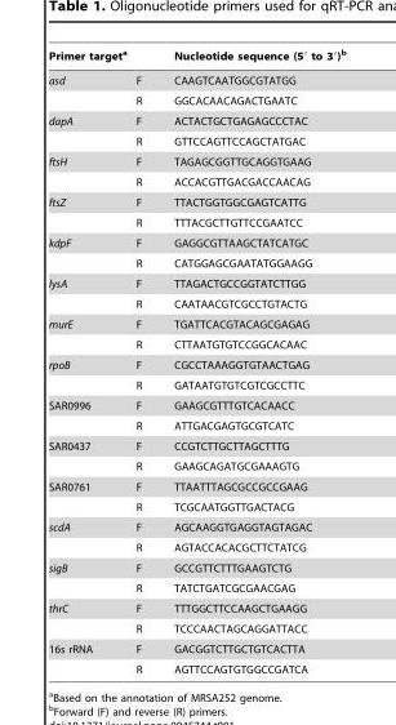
<table><thead><tr><td>Primer target<sup>a</sup></td><td></td><td>Nucleotide sequence (5′ to 3′)<sup>b</sup></td></tr></thead><tbody><tr><td rowspan="2">asd</td><td>F</td><td>CAAGTCAATGGCGTATGG</td></tr><tr><td>R</td><td>GGCACAACAGACTGAATC</td></tr><tr><td rowspan="2">dapA</td><td>F</td><td>ACTACTGCTGAGAGCCCTAC</td></tr><tr><td>R</td><td>GTTCCAGTTCCAGCTATGAC</td></tr><tr><td rowspan="2">ftsH</td><td>F</td><td>TAGAGCGGTTGCAGGTGAAG</td></tr><tr><td>R</td><td>ACCACGTTGACGACCAACAG</td></tr><tr><td rowspan="2">ftsZ</td><td>F</td><td>TTACTGGTGGCGAGTCATTG</td></tr><tr><td>R</td><td>TTTACGCTTGTTCCGAATCC</td></tr><tr><td rowspan="2">kdpF</td><td>F</td><td>GAGGCGTTAAGCTATCATGC</td></tr><tr><td>R</td><td>CATGGAGCGAATATGGAAGG</td></tr><tr><td rowspan="2">lysA</td><td>F</td><td>TTAGACTGCCGGTATCTTGG</td></tr><tr><td>R</td><td>CAATAACGTCGCCTGTACTG</td></tr><tr><td rowspan="2">murE</td><td>F</td><td>TGATTCACGTACAGCGAGAG</td></tr><tr><td>R</td><td>CTTAATGTGTCCGGCACAAC</td></tr><tr><td rowspan="2">rpoB</td><td>F</td><td>CGCCTAAAGGTGTAACTGAG</td></tr><tr><td>R</td><td>GATAATGTGTCGTCGCCTTC</td></tr><tr><td rowspan="2">SAR0996</td><td>F</td><td>GAAGCGTTTGTCACAACC</td></tr><tr><td>R</td><td>ATTGACGAGTGCGTCATC</td></tr><tr><td rowspan="2">SAR0437</td><td>F</td><td>CCGTCTTGCTTAGCTTTG</td></tr><tr><td>R</td><td>GAAGCAGATGCGAAAGTG</td></tr><tr><td rowspan="2">SAR0761</td><td>F</td><td>TTAATTTAGCGCCGCCGAAG</td></tr><tr><td>R</td><td>TCGCAATGGTTGACTACG</td></tr><tr><td rowspan="2">scdA</td><td>F</td><td>AGCAAGGTGAGGTAGTAGAC</td></tr><tr><td>R</td><td>AGTACCACACGCTTCTATCG</td></tr><tr><td rowspan="2">sigB</td><td>F</td><td>GCCGTTCTTTGAAGTCTG</td></tr><tr><td>R</td><td>TATCTGATCGCGAACGAG</td></tr><tr><td rowspan="2">thrC</td><td>F</td><td>TTTGGCTTCCAAGCTGAAGG</td></tr><tr><td>R</td><td>TCCCAACTAGCAGGATTACC</td></tr><tr><td rowspan="2">16s rRNA</td><td>F</td><td>GACGGTCTTGCTGTCACTTA</td></tr><tr><td>R</td><td>AGTTCCAGTGTGGCCGATCA</td></tr></tbody></table>